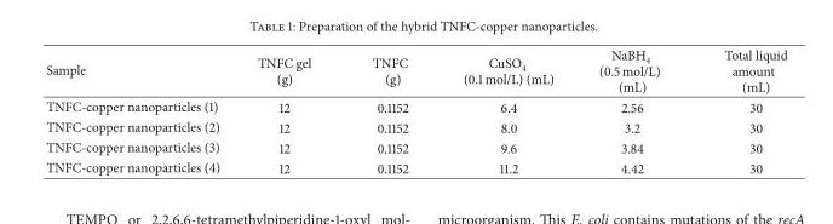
<table><thead><tr><td>Sample</td><td>TNFC gel (g)</td><td>TNFC (g)</td><td>CuSO<sub>4</sub> (0.1 mol/L) (mL)</td><td>NaBH<sub>4</sub> (0.5 mol/L) (mL)</td><td>Total liquid amount (mL)</td></tr></thead><tbody><tr><td>TNFC-copper nanoparticles (1)</td><td>12</td><td>0.1152</td><td>6.4</td><td>2.56</td><td>30</td></tr><tr><td>TNFC-copper nanoparticles (2)</td><td>12</td><td>0.1152</td><td>8.0</td><td>3.2</td><td>30</td></tr><tr><td>TNFC-copper nanoparticles (3)</td><td>12</td><td>0.1152</td><td>9.6</td><td>3.84</td><td>30</td></tr><tr><td>TNFC-copper nanoparticles (4)</td><td>12</td><td>0.1152</td><td>11.2</td><td>4.42</td><td>30</td></tr></tbody></table>